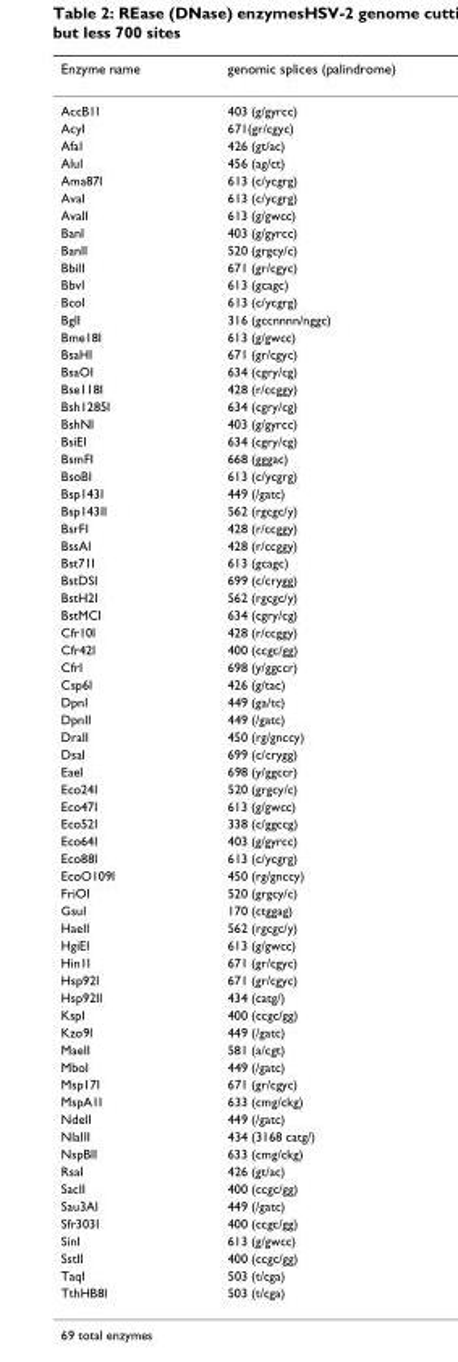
<table><thead><tr><td>Enzyme name</td><td>genomic splices (palindrome)</td></tr></thead><tbody><tr><td>AccB1I</td><td>403 (g/gyrcc)</td></tr><tr><td>AcyI</td><td>671(gr/cgyc)</td></tr><tr><td>AfaI</td><td>426 (gt/ac)</td></tr><tr><td>AluI</td><td>456 (ag/ct)</td></tr><tr><td>Ama87I</td><td>613 (c/ycgrg)</td></tr><tr><td>AvaI</td><td>613 (c/ycgrg)</td></tr><tr><td>AvaII</td><td>613 (g/gwcc)</td></tr><tr><td>BanI</td><td>403 (g/gyrcc)</td></tr><tr><td>BanII</td><td>520 (grgcy/c)</td></tr><tr><td>BbiII</td><td>671 (gr/cgyc)</td></tr><tr><td>BbvI</td><td>613 (gcagc)</td></tr><tr><td>BcoI</td><td>613 (c/ycgrg)</td></tr><tr><td>BglI</td><td>316 (gccnnnn/nggc)</td></tr><tr><td>Bme18I</td><td>613 (g/gwcc)</td></tr><tr><td>BsaHI</td><td>671 (gr/cgyc)</td></tr><tr><td>BsaOI</td><td>634 (cgry/cg)</td></tr><tr><td>Bse118I</td><td>428 (r/ccggy)</td></tr><tr><td>Bsh1285I</td><td>634 (cgry/cg)</td></tr><tr><td>BshNI</td><td>403 (g/gyrcc)</td></tr><tr><td>BsiEI</td><td>634 (cgry/cg)</td></tr><tr><td>BsmFI</td><td>668 (gggac)</td></tr><tr><td>BsoBI</td><td>613 (c/ycgrg)</td></tr><tr><td>Bsp143I</td><td>449 (/gatc)</td></tr><tr><td>Bsp143II</td><td>562 (rgcgc/y)</td></tr><tr><td>BsrFI</td><td>428 (r/ccggy)</td></tr><tr><td>BssAI</td><td>428 (r/ccggy)</td></tr><tr><td>Bst71I</td><td>613 (gcagc)</td></tr><tr><td>BstDSI</td><td>699 (c/crygg)</td></tr><tr><td>BstH2I</td><td>562 (rgcgc/y)</td></tr><tr><td>BstMCI</td><td>634 (cgry/cg)</td></tr><tr><td>Cfr10I</td><td>428 (r/ccggy)</td></tr><tr><td>Cfr42I</td><td>400 (ccgc/gg)</td></tr><tr><td>CfrI</td><td>698 (y/ggccr)</td></tr><tr><td>Csp6I</td><td>426 (g/tac)</td></tr><tr><td>DpnI</td><td>449 (ga/tc)</td></tr><tr><td>DpnII</td><td>449 (/gatc)</td></tr><tr><td>DraII</td><td>450 (rg/gnccy)</td></tr><tr><td>DsaI</td><td>699 (c/crygg)</td></tr><tr><td>EaeI</td><td>698 (y/ggccr)</td></tr><tr><td>Eco24I</td><td>520 (grgcy/c)</td></tr><tr><td>Eco47I</td><td>613 (g/gwcc)</td></tr><tr><td>Eco52I</td><td>338 (c/ggccg)</td></tr><tr><td>Eco64I</td><td>403 (g/gyrcc)</td></tr><tr><td>Eco88I</td><td>613 (c/ycgrg)</td></tr><tr><td>EcoO109I</td><td>450 (rg/gnccy)</td></tr><tr><td>FriOI</td><td>520 (grgcy/c)</td></tr><tr><td>GsuI</td><td>170 (ctggag)</td></tr><tr><td>HaeII</td><td>562 (rgcgc/y)</td></tr><tr><td>HgiEI</td><td>613 (g/gwcc)</td></tr><tr><td>Hin1I</td><td>671 (gr/cgyc)</td></tr><tr><td>Hsp92I</td><td>671 (gr/cgyc)</td></tr><tr><td>Hsp92II</td><td>434 (catg/)</td></tr><tr><td>KspI</td><td>400 (ccgc/gg)</td></tr><tr><td>Kzo9I</td><td>449 (/gatc)</td></tr><tr><td>MaeII</td><td>581 (a/cgt)</td></tr><tr><td>MboI</td><td>449 (/gatc)</td></tr><tr><td>Msp17I</td><td>671 (gr/cgyc)</td></tr><tr><td>MspA1I</td><td>633 (cmg/ckg)</td></tr><tr><td>NdeII</td><td>449 (/gatc)</td></tr><tr><td>NlaIII</td><td>434 (3168 catg/)</td></tr><tr><td>NspBII</td><td>633 (cmg/ckg)</td></tr><tr><td>RsaI</td><td>426 (gt/ac)</td></tr><tr><td>SacII</td><td>400 (ccgc/gg)</td></tr><tr><td>Sau3AI</td><td>449 (/gatc)</td></tr><tr><td>Sfr303I</td><td>400 (ccgc/gg)</td></tr><tr><td>SinI</td><td>613 (g/gwcc)</td></tr><tr><td>SstII</td><td>400 (ccgc/gg)</td></tr><tr><td>TaqI</td><td>503 (t/cga)</td></tr><tr><td>TthHB8I</td><td>503 (t/cga)</td></tr></tbody></table>